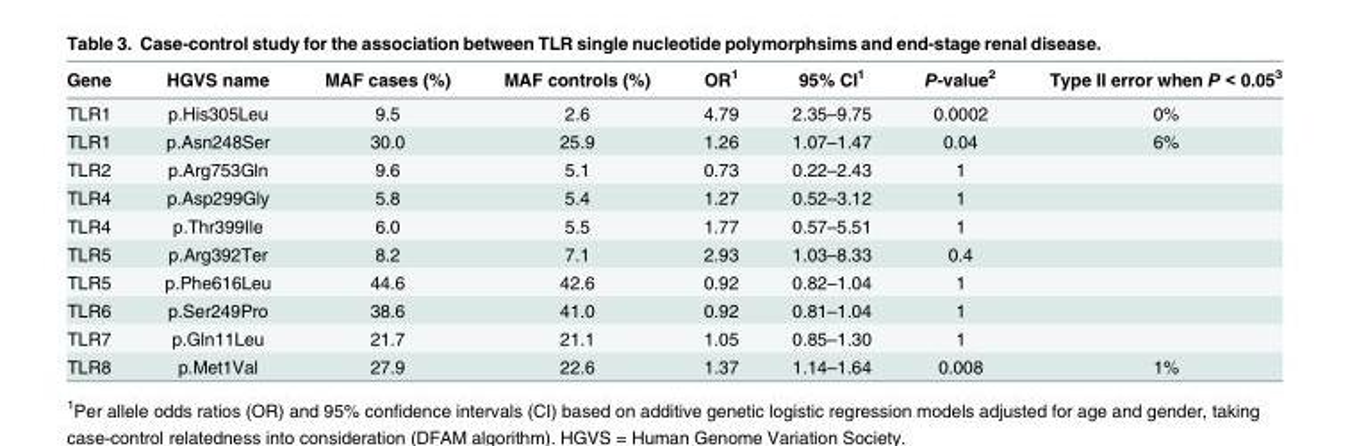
<table><thead><tr><td>Gene</td><td>HGVS name</td><td>MAF cases (%)</td><td>MAF controls (%)</td><td>OR<sup>1</sup></td><td>95% CI<sup>1</sup></td><td>P-value<sup>2</sup></td><td>Type II error when P &lt; 0.05<sup>3</sup></td></tr></thead><tbody><tr><td>TLR1</td><td>p.His305Leu</td><td>9.5</td><td>2.6</td><td>4.79</td><td>2.35–9.75</td><td>0.0002</td><td>0%</td></tr><tr><td>TLR1</td><td>p.Asn248Ser</td><td>30.0</td><td>25.9</td><td>1.26</td><td>1.07–1.47</td><td>0.04</td><td>6%</td></tr><tr><td>TLR2</td><td>p.Arg753Gln</td><td>9.6</td><td>5.1</td><td>0.73</td><td>0.22–2.43</td><td>1</td><td></td></tr><tr><td>TLR4</td><td>p.Asp299Gly</td><td>5.8</td><td>5.4</td><td>1.27</td><td>0.52–3.12</td><td>1</td><td></td></tr><tr><td>TLR4</td><td>p.Thr399Ile</td><td>6.0</td><td>5.5</td><td>1.77</td><td>0.57–5.51</td><td>1</td><td></td></tr><tr><td>TLR5</td><td>p.Arg392Ter</td><td>8.2</td><td>7.1</td><td>2.93</td><td>1.03–8.33</td><td>0.4</td><td></td></tr><tr><td>TLR5</td><td>p.Phe616Leu</td><td>44.6</td><td>42.6</td><td>0.92</td><td>0.82–1.04</td><td>1</td><td></td></tr><tr><td>TLR6</td><td>p.Ser249Pro</td><td>38.6</td><td>41.0</td><td>0.92</td><td>0.81–1.04</td><td>1</td><td></td></tr><tr><td>TLR7</td><td>p.Gln11Leu</td><td>21.7</td><td>21.1</td><td>1.05</td><td>0.85–1.30</td><td>1</td><td></td></tr><tr><td>TLR8</td><td>p.Met1Val</td><td>27.9</td><td>22.6</td><td>1.37</td><td>1.14–1.64</td><td>0.008</td><td>1%</td></tr></tbody></table>